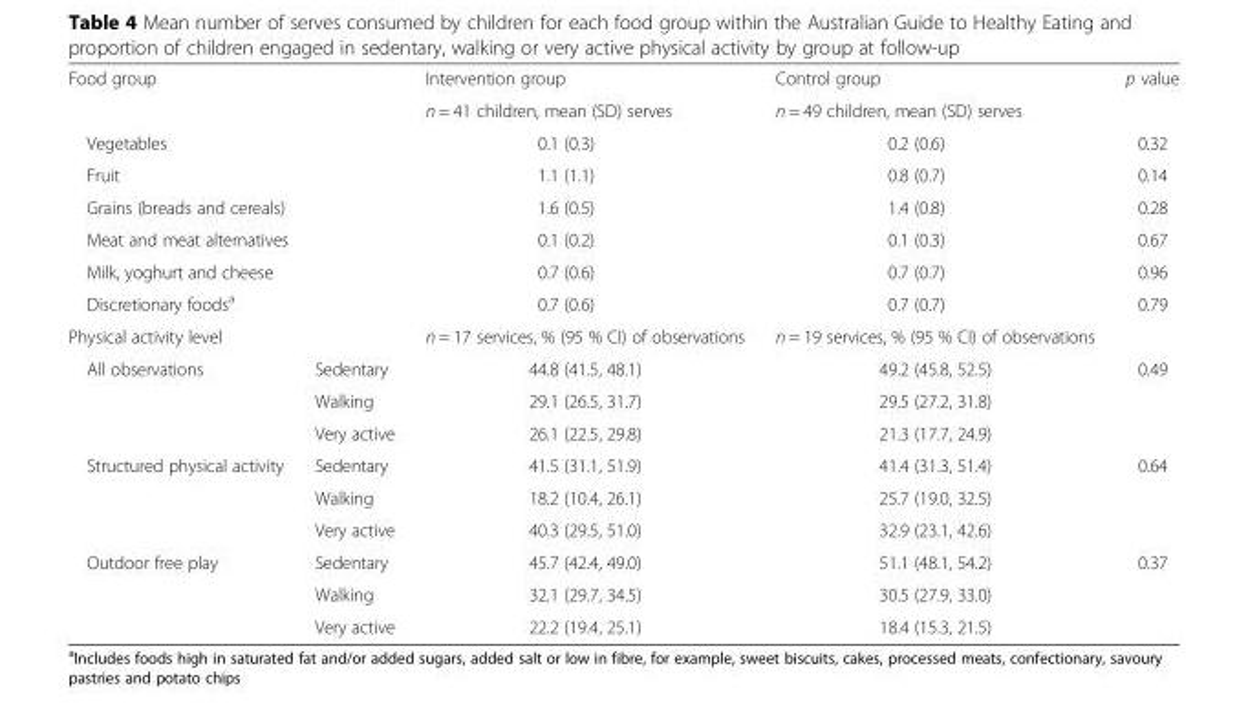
<table><tbody><tr><td rowspan="2" colspan="2">Food group</td><td>Intervention group</td><td>Control group</td><td rowspan="2">p value</td></tr><tr><td>n = 41 children, mean (SD) serves</td><td>n = 49 children, mean (SD) serves</td></tr><tr><td colspan="2">Vegetables</td><td>0.1 (0.3)</td><td>0.2 (0.6)</td><td>0.32</td></tr><tr><td colspan="2">Fruit</td><td>1.1 (1.1)</td><td>0.8 (0.7)</td><td>0.14</td></tr><tr><td colspan="2">Grains (breads and cereals)</td><td>1.6 (0.5)</td><td>1.4 (0.8)</td><td>0.28</td></tr><tr><td colspan="2">Meat and meat alternatives</td><td>0.1 (0.2)</td><td>0.1 (0.3)</td><td>0.67</td></tr><tr><td colspan="2">Milk, yoghurt and cheese</td><td>0.7 (0.6)</td><td>0.7 (0.7)</td><td>0.96</td></tr><tr><td colspan="2">Discretionary foods<sup>a</sup></td><td>0.7 (0.6)</td><td>0.7 (0.7)</td><td>0.79</td></tr><tr><td colspan="2">Physical activity level</td><td>n = 17 services, % (95 % CI) of observations</td><td>n = 19 services, % (95 % CI) of observations</td><td></td></tr><tr><td rowspan="3">All observations</td><td>Sedentary</td><td>44.8 (41.5, 48.1)</td><td>49.2 (45.8, 52.5)</td><td rowspan="3">0.49</td></tr><tr><td>Walking</td><td>29.1 (26.5, 31.7)</td><td>29.5 (27.2, 31.8)</td></tr><tr><td>Very active</td><td>26.1 (22.5, 29.8)</td><td>21.3 (17.7, 24.9)</td></tr><tr><td rowspan="3">Structured physical activity</td><td>Sedentary</td><td>41.5 (31.1, 51.9)</td><td>41.4 (31.3, 51.4)</td><td rowspan="3">0.64</td></tr><tr><td>Walking</td><td>18.2 (10.4, 26.1)</td><td>25.7 (19.0, 32.5)</td></tr><tr><td>Very active</td><td>40.3 (29.5, 51.0)</td><td>32.9 (23.1, 42.6)</td></tr><tr><td rowspan="3">Outdoor free play</td><td>Sedentary</td><td>45.7 (42.4, 49.0)</td><td>51.1 (48.1, 54.2)</td><td rowspan="3">0.37</td></tr><tr><td>Walking</td><td>32.1 (29.7, 34.5)</td><td>30.5 (27.9, 33.0)</td></tr><tr><td>Very active</td><td>22.2 (19.4, 25.1)</td><td>18.4 (15.3, 21.5)</td></tr></tbody></table>